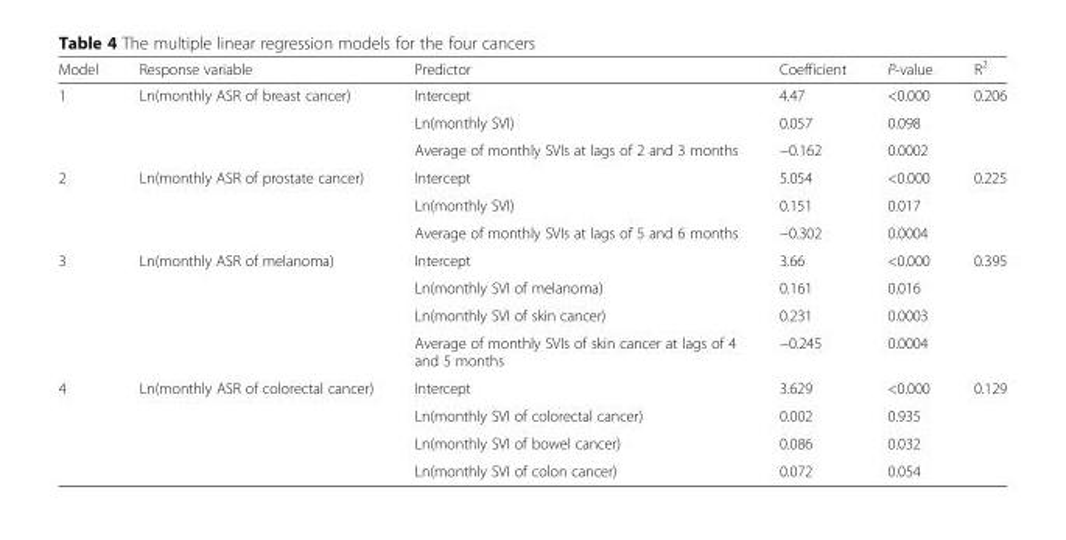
<table><thead><tr><td>Model</td><td>Response variable</td><td>Predictor</td><td>Coefficient</td><td>P-value</td><td>R<sup>2</sup></td></tr></thead><tbody><tr><td rowspan="3">1</td><td rowspan="3">Ln(monthly ASR of breast cancer)</td><td>Intercept</td><td>4.47</td><td>&lt;0.000</td><td rowspan="3">0.206</td></tr><tr><td>Ln(monthly SVI)</td><td>0.057</td><td>0.098</td></tr><tr><td>Average of monthly SVIs at lags of 2 and 3 months</td><td>−0.162</td><td>0.0002</td></tr><tr><td rowspan="3">2</td><td rowspan="3">Ln(monthly ASR of prostate cancer)</td><td>Intercept</td><td>5.054</td><td>&lt;0.000</td><td rowspan="3">0.225</td></tr><tr><td>Ln(monthly SVI)</td><td>0.151</td><td>0.017</td></tr><tr><td>Average of monthly SVIs at lags of 5 and 6 months</td><td>−0.302</td><td>0.0004</td></tr><tr><td rowspan="4">3</td><td rowspan="4">Ln(monthly ASR of melanoma)</td><td>Intercept</td><td>3.66</td><td>&lt;0.000</td><td rowspan="4">0.395</td></tr><tr><td>Ln(monthly SVI of melanoma)</td><td>0.161</td><td>0.016</td></tr><tr><td>Ln(monthly SVI of skin cancer)</td><td>0.231</td><td>0.0003</td></tr><tr><td>Average of monthly SVIs of skin cancer at lags of 4 and 5 months</td><td>−0.245</td><td>0.0004</td></tr><tr><td rowspan="4">4</td><td rowspan="4">Ln(monthly ASR of colorectal cancer)</td><td>Intercept</td><td>3.629</td><td>&lt;0.000</td><td rowspan="4">0.129</td></tr><tr><td>Ln(monthly SVI of colorectal cancer)</td><td>0.002</td><td>0.935</td></tr><tr><td>Ln(monthly SVI of bowel cancer)</td><td>0.086</td><td>0.032</td></tr><tr><td>Ln(monthly SVI of colon cancer)</td><td>0.072</td><td>0.054</td></tr></tbody></table>